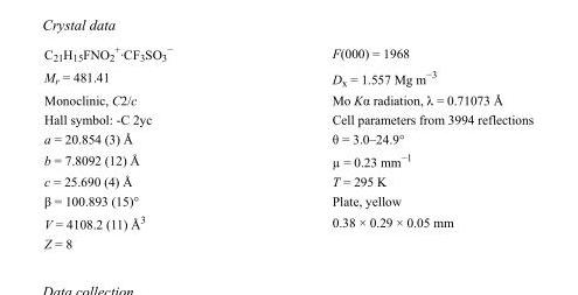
<table><tbody><tr><td>C<sub>21</sub>H<sub>15</sub>FNO<sub>2</sub> <sup>+</sup>·CF<sub>3</sub>SO<sub>3</sub> <sup>−</sup></td><td>F(000) = 1968</td></tr><tr><td>M<sub>r</sub> = 481.41</td><td>D<sub>x</sub> = 1.557 Mg m<sup>−3</sup></td></tr><tr><td>Monoclinic, C2/c</td><td>Mo Kα radiation, λ = 0.71073 Å</td></tr><tr><td>Hall symbol: -C 2yc</td><td>Cell parameters from 3994 reflections</td></tr><tr><td>a = 20.854 (3) Å</td><td>θ = 3.0–24.9°</td></tr><tr><td>b = 7.8092 (12) Å</td><td>µ = 0.23 mm<sup>−1</sup></td></tr><tr><td>c = 25.690 (4) Å</td><td>T = 295 K</td></tr><tr><td>β = 100.893 (15)°</td><td>Plate, yellow</td></tr><tr><td>V = 4108.2 (11) Å<sup>3</sup></td><td>0.38 × 0.29 × 0.05 mm</td></tr><tr><td>Z = 8</td><td></td></tr></tbody></table>